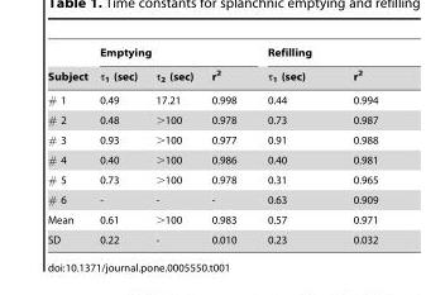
<table><thead><tr><td rowspan="2">Subject</td><td colspan="3">Emptying</td><td colspan="2">Refilling</td></tr><tr><td>τ<sub>1</sub> (sec)</td><td>τ<sub>2</sub> (sec)</td><td>r<sup>2</sup></td><td>τ<sub>1</sub> (sec)</td><td>r<sup>2</sup></td></tr></thead><tbody><tr><td># 1</td><td>0.49</td><td>17.21</td><td>0.998</td><td>0.44</td><td>0.994</td></tr><tr><td># 2</td><td>0.48</td><td>&gt;100</td><td>0.978</td><td>0.73</td><td>0.987</td></tr><tr><td># 3</td><td>0.93</td><td>&gt;100</td><td>0.977</td><td>0.91</td><td>0.988</td></tr><tr><td># 4</td><td>0.40</td><td>&gt;100</td><td>0.986</td><td>0.40</td><td>0.981</td></tr><tr><td># 5</td><td>0.73</td><td>&gt;100</td><td>0.978</td><td>0.31</td><td>0.965</td></tr><tr><td># 6</td><td>-</td><td>-</td><td>-</td><td>0.63</td><td>0.909</td></tr><tr><td>Mean</td><td>0.61</td><td>&gt;100</td><td>0.983</td><td>0.57</td><td>0.971</td></tr><tr><td>SD</td><td>0.22</td><td>-</td><td>0.010</td><td>0.23</td><td>0.032</td></tr></tbody></table>